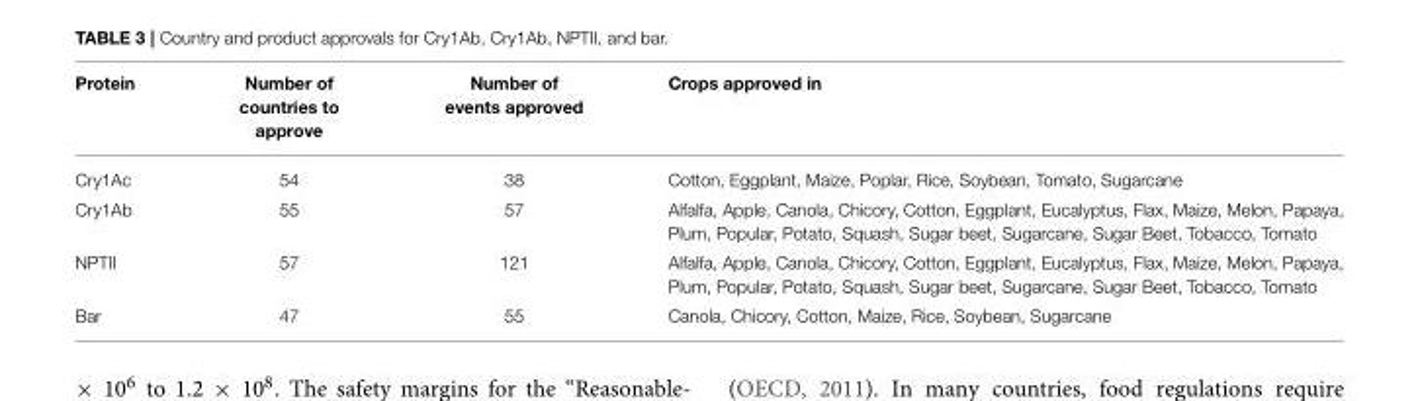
<table><thead><tr><td>Protein</td><td>Number of countries to approve</td><td>Number of events approved</td><td>Crops approved in</td></tr></thead><tbody><tr><td>Cry1Ac</td><td>54</td><td>38</td><td>Cotton, Eggplant, Maize, Poplar, Rice, Soybean, Tomato, Sugarcane</td></tr><tr><td>Cry1Ab</td><td>55</td><td>57</td><td>Alfalfa, Apple, Canola, Chicory, Cotton, Eggplant, Eucalyptus, Flax, Maize, Melon, Papaya, Plum, Popular, Potato, Squash, Sugar beet, Sugarcane, Sugar Beet, Tobacco, Tomato</td></tr><tr><td>NPTII</td><td>57</td><td>121</td><td>Alfalfa, Apple, Canola, Chicory, Cotton, Eggplant, Eucalyptus, Flax, Maize, Melon, Papaya, Plum, Popular, Potato, Squash, Sugar beet, Sugarcane, Sugar Beet, Tobacco, Tomato</td></tr><tr><td>Bar</td><td>47</td><td>55</td><td>Canola, Chicory, Cotton, Maize, Rice, Soybean, Sugarcane</td></tr></tbody></table>